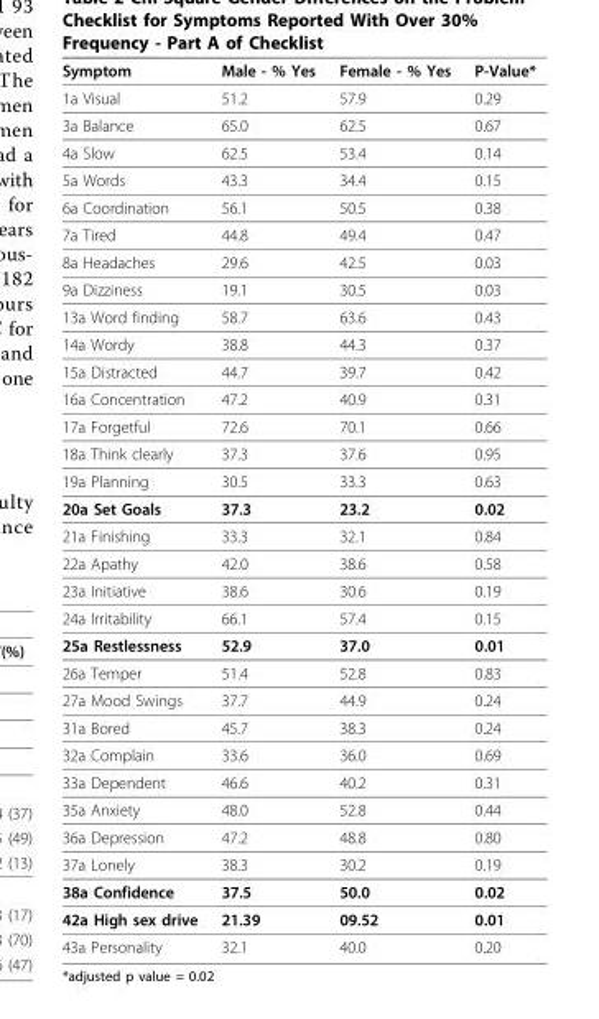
<table><thead><tr><td>Symptom</td><td>Male - % Yes</td><td>Female - % Yes</td><td>P-Value*</td></tr></thead><tbody><tr><td>1a Visual</td><td>51.2</td><td>57.9</td><td>0.29</td></tr><tr><td>3a Balance</td><td>65.0</td><td>62.5</td><td>0.67</td></tr><tr><td>4a Slow</td><td>62.5</td><td>53.4</td><td>0.14</td></tr><tr><td>5a Words</td><td>43.3</td><td>34.4</td><td>0.15</td></tr><tr><td>6a Coordination</td><td>56.1</td><td>50.5</td><td>0.38</td></tr><tr><td>7a Tired</td><td>44.8</td><td>49.4</td><td>0.47</td></tr><tr><td>8a Headaches</td><td>29.6</td><td>42.5</td><td>0.03</td></tr><tr><td>9a Dizziness</td><td>19.1</td><td>30.5</td><td>0.03</td></tr><tr><td>13a Word finding</td><td>58.7</td><td>63.6</td><td>0.43</td></tr><tr><td>14a Wordy</td><td>38.8</td><td>44.3</td><td>0.37</td></tr><tr><td>15a Distracted</td><td>44.7</td><td>39.7</td><td>0.42</td></tr><tr><td>16a Concentration</td><td>47.2</td><td>40.9</td><td>0.31</td></tr><tr><td>17a Forgetful</td><td>72.6</td><td>70.1</td><td>0.66</td></tr><tr><td>18a Think clearly</td><td>37.3</td><td>37.6</td><td>0.95</td></tr><tr><td>19a Planning</td><td>30.5</td><td>33.3</td><td>0.63</td></tr><tr><td>20a Set Goals</td><td>37.3</td><td>23.2</td><td>0.02</td></tr><tr><td>21a Finishing</td><td>33.3</td><td>32.1</td><td>0.84</td></tr><tr><td>22a Apathy</td><td>42.0</td><td>38.6</td><td>0.58</td></tr><tr><td>23a Initiative</td><td>38.6</td><td>30.6</td><td>0.19</td></tr><tr><td>24a Irritability</td><td>66.1</td><td>57.4</td><td>0.15</td></tr><tr><td>25a Restlessness</td><td>52.9</td><td>37.0</td><td>0.01</td></tr><tr><td>26a Temper</td><td>51.4</td><td>52.8</td><td>0.83</td></tr><tr><td>27a Mood Swings</td><td>37.7</td><td>44.9</td><td>0.24</td></tr><tr><td>31a Bored</td><td>45.7</td><td>38.3</td><td>0.24</td></tr><tr><td>32a Complain</td><td>33.6</td><td>36.0</td><td>0.69</td></tr><tr><td>33a Dependent</td><td>46.6</td><td>40.2</td><td>0.31</td></tr><tr><td>35a Anxiety</td><td>48.0</td><td>52.8</td><td>0.44</td></tr><tr><td>36a Depression</td><td>47.2</td><td>48.8</td><td>0.80</td></tr><tr><td>37a Lonely</td><td>38.3</td><td>30.2</td><td>0.19</td></tr><tr><td>38a Confidence</td><td>37.5</td><td>50.0</td><td>0.02</td></tr><tr><td>42a High sex drive</td><td>21.39</td><td>09.52</td><td>0.01</td></tr><tr><td>43a Personality</td><td>32.1</td><td>40.0</td><td>0.20</td></tr></tbody></table>